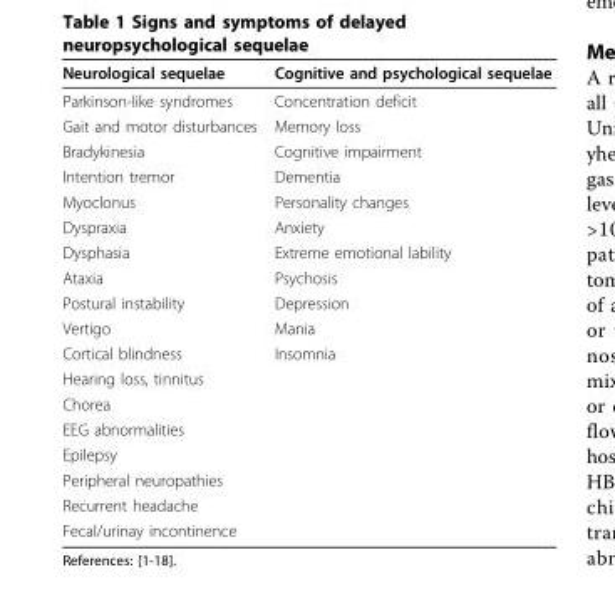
<table><thead><tr><td>Neurological sequelae</td><td>Cognitive and psychological sequelae</td></tr></thead><tbody><tr><td>Parkinson-like syndromes</td><td>Concentration deficit</td></tr><tr><td>Gait and motor disturbances</td><td>Memory loss</td></tr><tr><td>Bradykinesia</td><td>Cognitive impairment</td></tr><tr><td>Intention tremor</td><td>Dementia</td></tr><tr><td>Myoclonus</td><td>Personality changes</td></tr><tr><td>Dyspraxia</td><td>Anxiety</td></tr><tr><td>Dysphasia</td><td>Extreme emotional lability</td></tr><tr><td>Ataxia</td><td>Psychosis</td></tr><tr><td>Postural instability</td><td>Depression</td></tr><tr><td>Vertigo</td><td>Mania</td></tr><tr><td>Cortical blindness</td><td>Insomnia</td></tr><tr><td colspan="2">Hearing loss, tinnitus</td></tr><tr><td colspan="2">Chorea</td></tr><tr><td colspan="2">EEG abnormalities</td></tr><tr><td colspan="2">Epilepsy</td></tr><tr><td colspan="2">Peripheral neuropathies</td></tr><tr><td colspan="2">Recurrent headache</td></tr><tr><td>Fecal/urinay incontinence</td><td></td></tr></tbody></table>